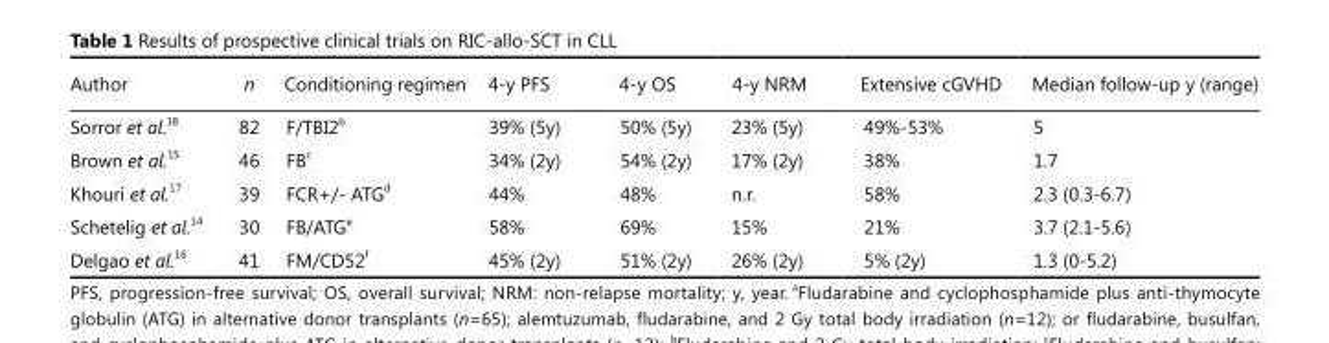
<table><thead><tr><td>Author</td><td>n</td><td>Conditioning regimen</td><td>4-y PFS</td><td>4-y OS</td><td>4-y NRM</td><td>Extensive cGVHD</td><td>Median follow-up y (range)</td></tr></thead><tbody><tr><td>Sorror et al. <sup>18</sup></td><td>82</td><td>F/TBI2 <sup>b</sup></td><td>39% (5y)</td><td>50% (5y)</td><td>23% (5y)</td><td>49%-53%</td><td>5</td></tr><tr><td>Brown et al. <sup>15</sup></td><td>46</td><td>FB <sup>c</sup></td><td>34% (2y)</td><td>54% (2y)</td><td>17% (2y)</td><td>38%</td><td>1.7</td></tr><tr><td>Khouri et al. <sup>17</sup></td><td>39</td><td>FCR+/- ATG <sup>d</sup></td><td>44%</td><td>48%</td><td>n.r.</td><td>58%</td><td>2.3 (0.3-6.7)</td></tr><tr><td>Schetelig et al. <sup>14</sup></td><td>30</td><td>FB/ATG <sup>e</sup></td><td>58%</td><td>69%</td><td>15%</td><td>21%</td><td>3.7 (2.1-5.6)</td></tr><tr><td>Delgao et al. <sup>16</sup></td><td>41</td><td>FM/CD52 <sup>f</sup></td><td>45% (2y)</td><td>51% (2y)</td><td>26% (2y)</td><td>5% (2y)</td><td>1.3 (0-5.2)</td></tr></tbody></table>